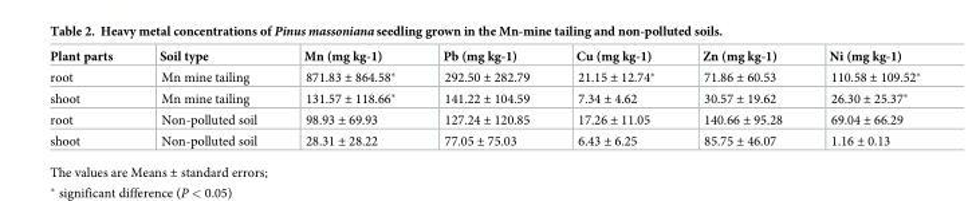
<table><thead><tr><td>Plant parts</td><td>Soil type</td><td>Mn (mg kg-1)</td><td>Pb (mg kg-1)</td><td>Cu (mg kg-1)</td><td>Zn (mg kg-1)</td><td>Ni (mg kg-1)</td></tr></thead><tbody><tr><td>root</td><td>Mn mine tailing</td><td>871.83 ± 864.58*</td><td>292.50 ± 282.79</td><td>21.15 ± 12.74*</td><td>71.86 ± 60.53</td><td>110.58 ± 109.52*</td></tr><tr><td>shoot</td><td>Mn mine tailing</td><td>131.57 ± 118.66*</td><td>141.22 ± 104.59</td><td>7.34 ± 4.62</td><td>30.57 ± 19.62</td><td>26.30 ± 25.37*</td></tr><tr><td>root</td><td>Non-polluted soil</td><td>98.93 ± 69.93</td><td>127.24 ± 120.85</td><td>17.26 ± 11.05</td><td>140.66 ± 95.28</td><td>69.04 ± 66.29</td></tr><tr><td>shoot</td><td>Non-polluted soil</td><td>28.31 ± 28.22</td><td>77.05 ± 75.03</td><td>6.43 ± 6.25</td><td>85.75 ± 46.07</td><td>1.16 ± 0.13</td></tr></tbody></table>